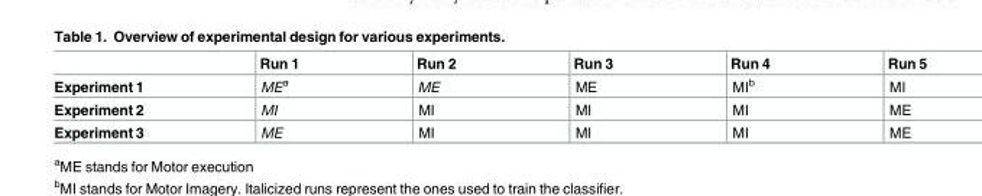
<table><thead><tr><td></td><td>Run 1</td><td>Run 2</td><td>Run 3</td><td>Run 4</td><td>Run 5</td></tr></thead><tbody><tr><td>Experiment 1</td><td>ME<sup>a</sup></td><td>ME</td><td>ME</td><td>MI<sup>b</sup></td><td>MI</td></tr><tr><td>Experiment 2</td><td>MI</td><td>MI</td><td>MI</td><td>MI</td><td>ME</td></tr><tr><td>Experiment 3</td><td>ME</td><td>MI</td><td>MI</td><td>MI</td><td>ME</td></tr></tbody></table>